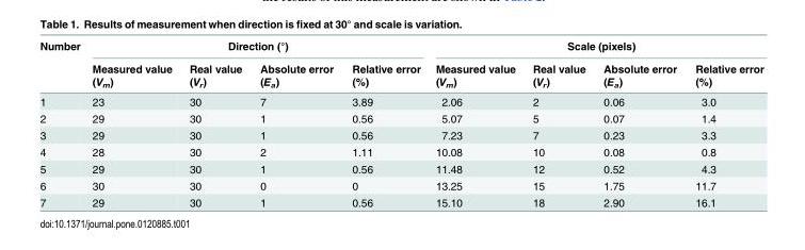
<table><thead><tr><td rowspan="2">Number</td><td colspan="4">Direction (°)</td><td colspan="4">Scale (pixels)</td></tr><tr><td>Measured value (V<sub>m</sub>)</td><td>Real value (V<sub>r</sub>)</td><td>Absolute error (E<sub>a</sub>)</td><td>Relative error (%)</td><td>Measured value (V<sub>m</sub>)</td><td>Real value (V<sub>r</sub>)</td><td>Absolute error (E<sub>a</sub>)</td><td>Relative error (%)</td></tr></thead><tbody><tr><td>1</td><td>23</td><td>30</td><td>7</td><td>3.89</td><td>2.06</td><td>2</td><td>0.06</td><td>3.0</td></tr><tr><td>2</td><td>29</td><td>30</td><td>1</td><td>0.56</td><td>5.07</td><td>5</td><td>0.07</td><td>1.4</td></tr><tr><td>3</td><td>29</td><td>30</td><td>1</td><td>0.56</td><td>7.23</td><td>7</td><td>0.23</td><td>3.3</td></tr><tr><td>4</td><td>28</td><td>30</td><td>2</td><td>1.11</td><td>10.08</td><td>10</td><td>0.08</td><td>0.8</td></tr><tr><td>5</td><td>29</td><td>30</td><td>1</td><td>0.56</td><td>11.48</td><td>12</td><td>0.52</td><td>4.3</td></tr><tr><td>6</td><td>30</td><td>30</td><td>0</td><td>0</td><td>13.25</td><td>15</td><td>1.75</td><td>11.7</td></tr><tr><td>7</td><td>29</td><td>30</td><td>1</td><td>0.56</td><td>15.10</td><td>18</td><td>2.90</td><td>16.1</td></tr></tbody></table>